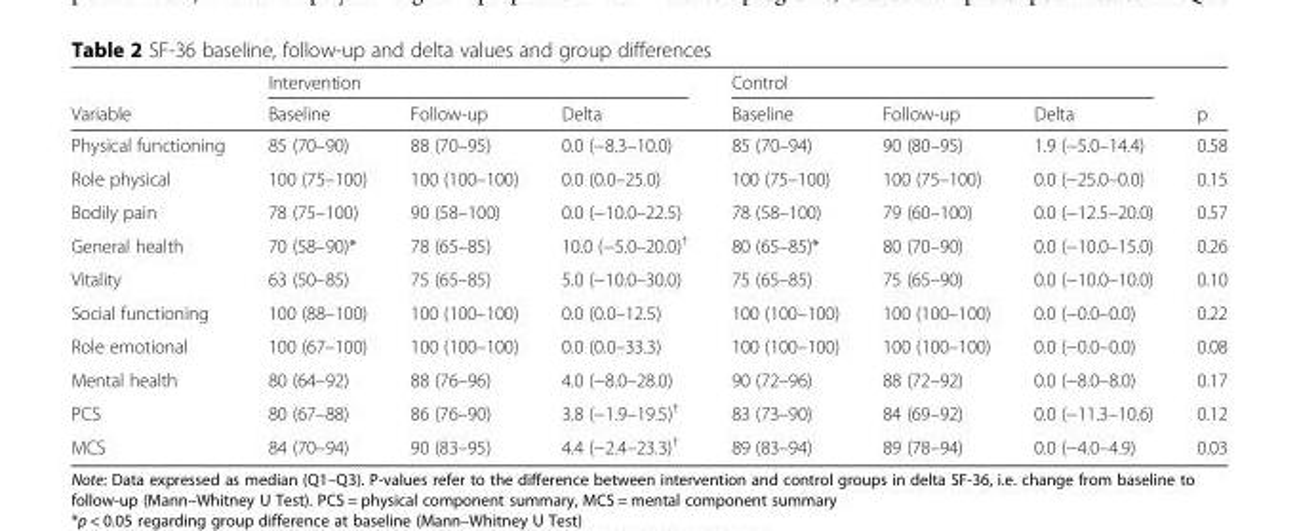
<table><thead><tr><td rowspan="2">Variable</td><td colspan="3">Intervention</td><td colspan="3">Control</td><td rowspan="2">p</td></tr><tr><td>Baseline</td><td>Follow-up</td><td>Delta</td><td>Baseline</td><td>Follow-up</td><td>Delta</td></tr></thead><tbody><tr><td>Physical functioning</td><td>85 (70–90)</td><td>88 (70–95)</td><td>0.0 (−8.3–10.0)</td><td>85 (70–94)</td><td>90 (80–95)</td><td>1.9 (−5.0–14.4)</td><td>0.58</td></tr><tr><td>Role physical</td><td>100 (75–100)</td><td>100 (100–100)</td><td>0.0 (0.0–25.0)</td><td>100 (75–100)</td><td>100 (75–100)</td><td>0.0 (−25.0–0.0)</td><td>0.15</td></tr><tr><td>Bodily pain</td><td>78 (75–100)</td><td>90 (58–100)</td><td>0.0 (−10.0–22.5)</td><td>78 (58–100)</td><td>79 (60–100)</td><td>0.0 (−12.5–20.0)</td><td>0.57</td></tr><tr><td>General health</td><td>70 (58–90)*</td><td>78 (65–85)</td><td>10.0 (−5.0–20.0)<sup>†</sup></td><td>80 (65–85)*</td><td>80 (70–90)</td><td>0.0 (−10.0–15.0)</td><td>0.26</td></tr><tr><td>Vitality</td><td>63 (50–85)</td><td>75 (65–85)</td><td>5.0 (−10.0–30.0)</td><td>75 (65–85)</td><td>75 (65–90)</td><td>0.0 (−10.0–10.0)</td><td>0.10</td></tr><tr><td>Social functioning</td><td>100 (88–100)</td><td>100 (100–100)</td><td>0.0 (0.0–12.5)</td><td>100 (100–100)</td><td>100 (100–100)</td><td>0.0 (−0.0–0.0)</td><td>0.22</td></tr><tr><td>Role emotional</td><td>100 (67–100)</td><td>100 (100–100)</td><td>0.0 (0.0–33.3)</td><td>100 (100–100)</td><td>100 (100–100)</td><td>0.0 (−0.0–0.0)</td><td>0.08</td></tr><tr><td>Mental health</td><td>80 (64–92)</td><td>88 (76–96)</td><td>4.0 (−8.0–28.0)</td><td>90 (72–96)</td><td>88 (72–92)</td><td>0.0 (−8.0–8.0)</td><td>0.17</td></tr><tr><td>PCS</td><td>80 (67–88)</td><td>86 (76–90)</td><td>3.8 (−1.9–19.5)<sup>†</sup></td><td>83 (73–90)</td><td>84 (69–92)</td><td>0.0 (−11.3–10.6)</td><td>0.12</td></tr><tr><td>MCS</td><td>84 (70–94)</td><td>90 (83–95)</td><td>4.4 (−2.4–23.3)<sup>†</sup></td><td>89 (83–94)</td><td>89 (78–94)</td><td>0.0 (−4.0–4.9)</td><td>0.03</td></tr></tbody></table>